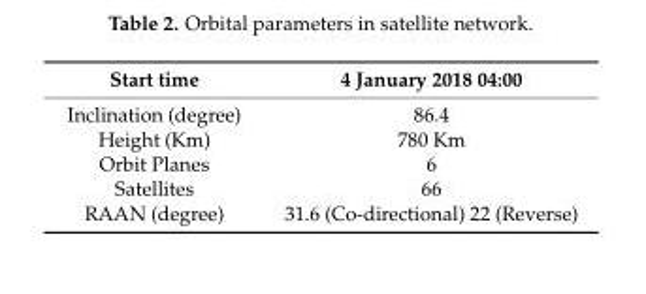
<table><thead><tr><td>Start time</td><td>4 January 2018 04:00</td></tr></thead><tbody><tr><td>Inclination (degree)</td><td>86.4</td></tr><tr><td>Height (Km)</td><td>780 Km</td></tr><tr><td>Orbit Planes</td><td>6</td></tr><tr><td>Satellites</td><td>66</td></tr><tr><td>RAAN (degree)</td><td>31.6 (Co-directional) 22 (Reverse)</td></tr></tbody></table>